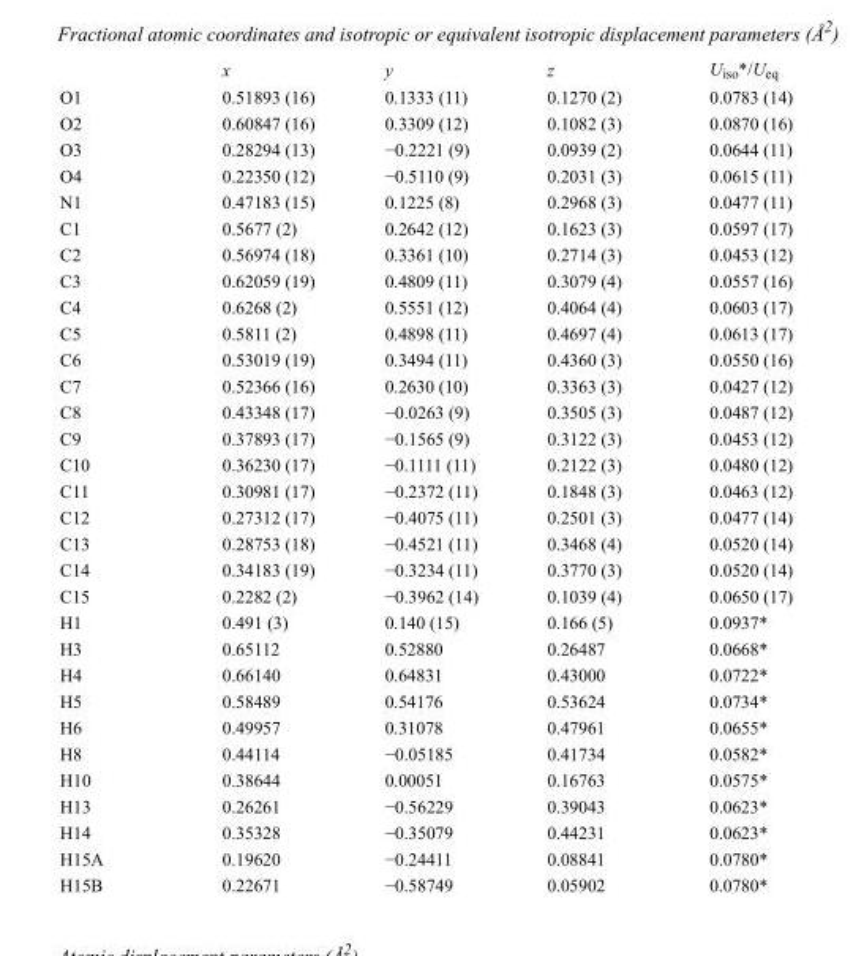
<table><thead><tr><td></td><td>x</td><td>y</td><td>z</td><td>U<sub>iso</sub>*/U<sub>eq</sub></td></tr></thead><tbody><tr><td>O1</td><td>0.51893 (16)</td><td>0.1333 (11)</td><td>0.1270 (2)</td><td>0.0783 (14)</td></tr><tr><td>O2</td><td>0.60847 (16)</td><td>0.3309 (12)</td><td>0.1082 (3)</td><td>0.0870 (16)</td></tr><tr><td>O3</td><td>0.28294 (13)</td><td>−0.2221 (9)</td><td>0.0939 (2)</td><td>0.0644 (11)</td></tr><tr><td>O4</td><td>0.22350 (12)</td><td>−0.5110 (9)</td><td>0.2031 (3)</td><td>0.0615 (11)</td></tr><tr><td>N1</td><td>0.47183 (15)</td><td>0.1225 (8)</td><td>0.2968 (3)</td><td>0.0477 (11)</td></tr><tr><td>C1</td><td>0.5677 (2)</td><td>0.2642 (12)</td><td>0.1623 (3)</td><td>0.0597 (17)</td></tr><tr><td>C2</td><td>0.56974 (18)</td><td>0.3361 (10)</td><td>0.2714 (3)</td><td>0.0453 (12)</td></tr><tr><td>C3</td><td>0.62059 (19)</td><td>0.4809 (11)</td><td>0.3079 (4)</td><td>0.0557 (16)</td></tr><tr><td>C4</td><td>0.6268 (2)</td><td>0.5551 (12)</td><td>0.4064 (4)</td><td>0.0603 (17)</td></tr><tr><td>C5</td><td>0.5811 (2)</td><td>0.4898 (11)</td><td>0.4697 (4)</td><td>0.0613 (17)</td></tr><tr><td>C6</td><td>0.53019 (19)</td><td>0.3494 (11)</td><td>0.4360 (3)</td><td>0.0550 (16)</td></tr><tr><td>C7</td><td>0.52366 (16)</td><td>0.2630 (10)</td><td>0.3363 (3)</td><td>0.0427 (12)</td></tr><tr><td>C8</td><td>0.43348 (17)</td><td>−0.0263 (9)</td><td>0.3505 (3)</td><td>0.0487 (12)</td></tr><tr><td>C9</td><td>0.37893 (17)</td><td>−0.1565 (9)</td><td>0.3122 (3)</td><td>0.0453 (12)</td></tr><tr><td>C10</td><td>0.36230 (17)</td><td>−0.1111 (11)</td><td>0.2122 (3)</td><td>0.0480 (12)</td></tr><tr><td>C11</td><td>0.30981 (17)</td><td>−0.2372 (11)</td><td>0.1848 (3)</td><td>0.0463 (12)</td></tr><tr><td>C12</td><td>0.27312 (17)</td><td>−0.4075 (11)</td><td>0.2501 (3)</td><td>0.0477 (14)</td></tr><tr><td>C13</td><td>0.28753 (18)</td><td>−0.4521 (11)</td><td>0.3468 (4)</td><td>0.0520 (14)</td></tr><tr><td>C14</td><td>0.34183 (19)</td><td>−0.3234 (11)</td><td>0.3770 (3)</td><td>0.0520 (14)</td></tr><tr><td>C15</td><td>0.2282 (2)</td><td>−0.3962 (14)</td><td>0.1039 (4)</td><td>0.0650 (17)</td></tr><tr><td>H1</td><td>0.491 (3)</td><td>0.140 (15)</td><td>0.166 (5)</td><td>0.0937*</td></tr><tr><td>H3</td><td>0.65112</td><td>0.52880</td><td>0.26487</td><td>0.0668*</td></tr><tr><td>H4</td><td>0.66140</td><td>0.64831</td><td>0.43000</td><td>0.0722*</td></tr><tr><td>H5</td><td>0.58489</td><td>0.54176</td><td>0.53624</td><td>0.0734*</td></tr><tr><td>H6</td><td>0.49957</td><td>0.31078</td><td>0.47961</td><td>0.0655*</td></tr><tr><td>H8</td><td>0.44114</td><td>−0.05185</td><td>0.41734</td><td>0.0582*</td></tr><tr><td>H10</td><td>0.38644</td><td>0.00051</td><td>0.16763</td><td>0.0575*</td></tr><tr><td>H13</td><td>0.26261</td><td>−0.56229</td><td>0.39043</td><td>0.0623*</td></tr><tr><td>H14</td><td>0.35328</td><td>−0.35079</td><td>0.44231</td><td>0.0623*</td></tr><tr><td>H15A</td><td>0.19620</td><td>−0.24411</td><td>0.08841</td><td>0.0780*</td></tr><tr><td>H15B</td><td>0.22671</td><td>−0.58749</td><td>0.05902</td><td>0.0780*</td></tr></tbody></table>